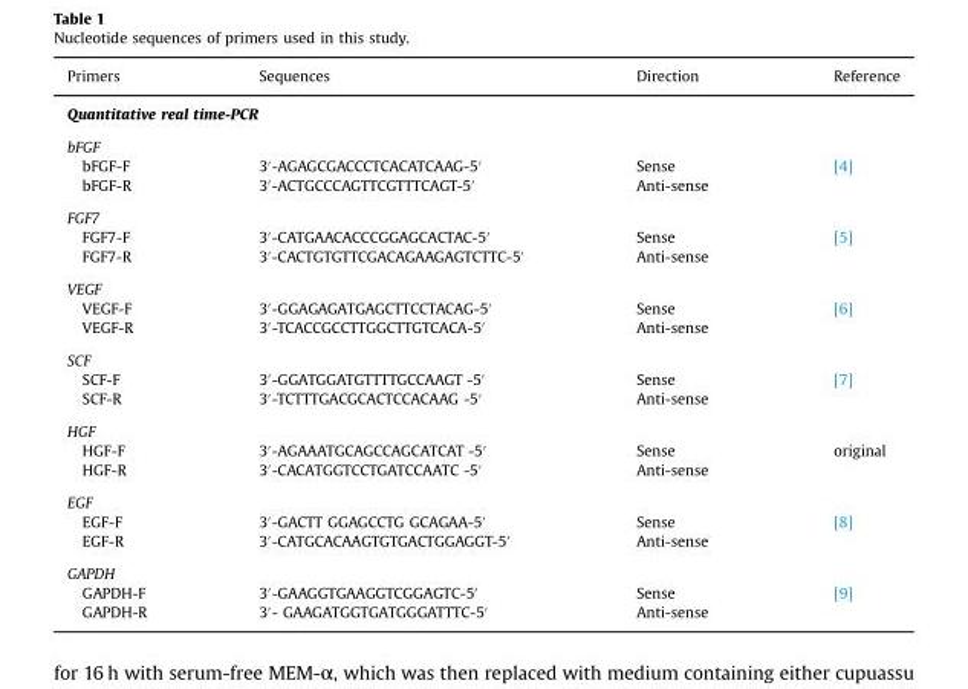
<table><thead><tr><td>Primers</td><td>Sequences</td><td>Direction</td><td>Reference</td></tr></thead><tbody><tr><td colspan="4">Quantitative real time-PCR</td></tr><tr><td colspan="4">bFGF</td></tr><tr><td>bFGF-F</td><td>3′-AGAGCGACCCTCACATCAAG-5′</td><td>Sense</td><td rowspan="2">[4]</td></tr><tr><td>bFGF-R</td><td>3′-ACTGCCCAGTTCGTTTCAGT-5′</td><td>Anti-sense</td></tr><tr><td colspan="4">FGF7</td></tr><tr><td>FGF7-F</td><td>3′-CATGAACACCCGGAGCACTAC-5′</td><td>Sense</td><td rowspan="2">[5]</td></tr><tr><td>FGF7-R</td><td>3′-CACTGTGTTCGACAGAAGAGTCTTC-5′</td><td>Anti-sense</td></tr><tr><td colspan="4">VEGF</td></tr><tr><td>VEGF-F</td><td>3′-GGAGAGATGAGCTTCCTACAG-5′</td><td>Sense</td><td rowspan="2">[6]</td></tr><tr><td>VEGF-R</td><td>3′-TCACCGCCTTGGCTTGTCACA-5′</td><td>Anti-sense</td></tr><tr><td colspan="4">SCF</td></tr><tr><td>SCF-F</td><td>3′-GGATGGATGTTTTGCCAAGT -5′</td><td>Sense</td><td rowspan="2">[7]</td></tr><tr><td>SCF-R</td><td>3′-TCTTTGACGCACTCCACAAG -5′</td><td>Anti-sense</td></tr><tr><td colspan="4">HGF</td></tr><tr><td>HGF-F</td><td>3′-AGAAATGCAGCCAGCATCAT -5′</td><td>Sense</td><td rowspan="2">original</td></tr><tr><td>HGF-R</td><td>3′-CACATGGTCCTGATCCAATC -5′</td><td>Anti-sense</td></tr><tr><td colspan="4">EGF</td></tr><tr><td>EGF-F</td><td>3′-GACTT GGAGCCTG GCAGAA-5′</td><td>Sense</td><td rowspan="2">[8]</td></tr><tr><td>EGF-R</td><td>3′-CATGCACAAGTGTGACTGGAGGT-5′</td><td>Anti-sense</td></tr><tr><td colspan="4">GAPDH</td></tr><tr><td>GAPDH-F</td><td>3′-GAAGGTGAAGGTCGGAGTC-5′</td><td>Sense</td><td rowspan="2">[9]</td></tr><tr><td>GAPDH-R</td><td>3′- GAAGATGGTGATGGGATTTC-5′</td><td>Anti-sense</td></tr></tbody></table>